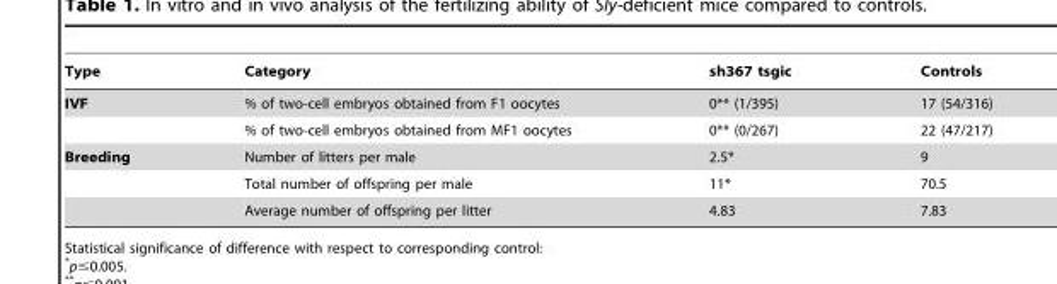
<table><thead><tr><td>Type</td><td>Category</td><td>sh367 tsgic</td><td>Controls</td></tr></thead><tbody><tr><td rowspan="2">IVF</td><td>% of two-cell embryos obtained from F1 oocytes</td><td>0** (1/395)</td><td>17 (54/316)</td></tr><tr><td>% of two-cell embryos obtained from MF1 oocytes</td><td>0** (0/267)</td><td>22 (47/217)</td></tr><tr><td rowspan="3">Breeding</td><td>Number of litters per male</td><td>2.5*</td><td>9</td></tr><tr><td>Total number of offspring per male</td><td>11*</td><td>70.5</td></tr><tr><td>Average number of offspring per litter</td><td>4.83</td><td>7.83</td></tr></tbody></table>